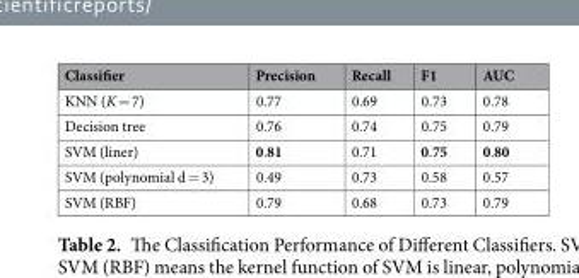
<table><thead><tr><td>Classifier</td><td>Precision</td><td>Recall</td><td>F1</td><td>AUC</td></tr></thead><tbody><tr><td>KNN (K = 7)</td><td>0.77</td><td>0.69</td><td>0.73</td><td>0.78</td></tr><tr><td>Decision tree</td><td>0.76</td><td>0.74</td><td>0.75</td><td>0.79</td></tr><tr><td>SVM (liner)</td><td>0.81</td><td>0.71</td><td>0.75</td><td>0.80</td></tr><tr><td>SVM (polynomial d = 3)</td><td>0.49</td><td>0.73</td><td>0.58</td><td>0.57</td></tr><tr><td>SVM (RBF)</td><td>0.79</td><td>0.68</td><td>0.73</td><td>0.79</td></tr></tbody></table>